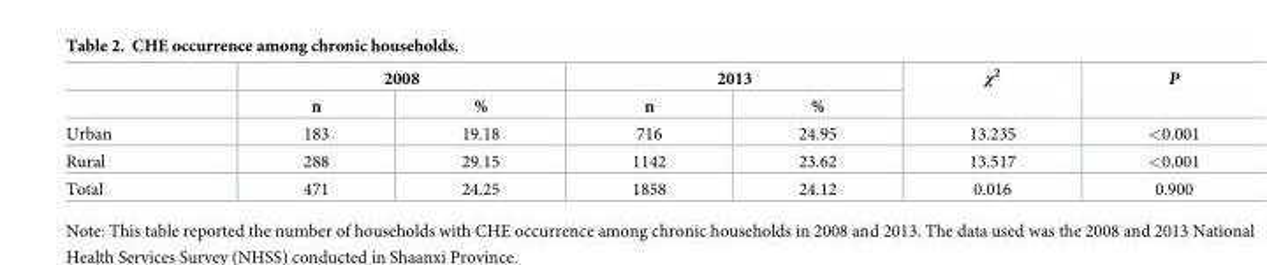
<table><thead><tr><td rowspan="2"></td><td colspan="2">2008</td><td colspan="2">2013</td><td rowspan="2">χ<sup>2</sup></td><td rowspan="2">P</td></tr><tr><td>n</td><td>%</td><td>n</td><td>%</td></tr></thead><tbody><tr><td>Urban</td><td>183</td><td>19.18</td><td>716</td><td>24.95</td><td>13.235</td><td>&lt;0.001</td></tr><tr><td>Rural</td><td>288</td><td>29.15</td><td>1142</td><td>23.62</td><td>13.517</td><td>&lt;0.001</td></tr><tr><td>Total</td><td>471</td><td>24.25</td><td>1858</td><td>24.12</td><td>0.016</td><td>0.900</td></tr></tbody></table>